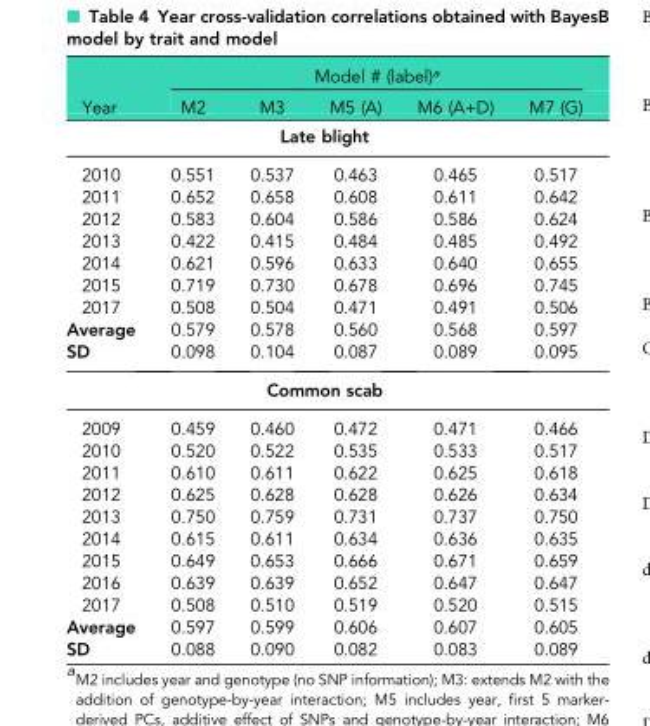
<table><thead><tr><td rowspan="2">Year</td><td colspan="5">Model # (label)<sup>a</sup></td></tr><tr><td>M2</td><td>M3</td><td>M5 (A)</td><td>M6 (A+D)</td><td>M7 (G)</td></tr></thead><tbody><tr><td colspan="6">Late blight</td></tr><tr><td>2010</td><td>0.551</td><td>0.537</td><td>0.463</td><td>0.465</td><td>0.517</td></tr><tr><td>2011</td><td>0.652</td><td>0.658</td><td>0.608</td><td>0.611</td><td>0.642</td></tr><tr><td>2012</td><td>0.583</td><td>0.604</td><td>0.586</td><td>0.586</td><td>0.624</td></tr><tr><td>2013</td><td>0.422</td><td>0.415</td><td>0.484</td><td>0.485</td><td>0.492</td></tr><tr><td>2014</td><td>0.621</td><td>0.596</td><td>0.633</td><td>0.640</td><td>0.655</td></tr><tr><td>2015</td><td>0.719</td><td>0.730</td><td>0.678</td><td>0.696</td><td>0.745</td></tr><tr><td>2017</td><td>0.508</td><td>0.504</td><td>0.471</td><td>0.491</td><td>0.506</td></tr><tr><td>Average</td><td>0.579</td><td>0.578</td><td>0.560</td><td>0.568</td><td>0.597</td></tr><tr><td>SD</td><td>0.098</td><td>0.104</td><td>0.087</td><td>0.089</td><td>0.095</td></tr><tr><td colspan="6">Common scab</td></tr><tr><td>2009</td><td>0.459</td><td>0.460</td><td>0.472</td><td>0.471</td><td>0.466</td></tr><tr><td>2010</td><td>0.520</td><td>0.522</td><td>0.535</td><td>0.533</td><td>0.517</td></tr><tr><td>2011</td><td>0.610</td><td>0.611</td><td>0.622</td><td>0.625</td><td>0.618</td></tr><tr><td>2012</td><td>0.625</td><td>0.628</td><td>0.628</td><td>0.626</td><td>0.634</td></tr><tr><td>2013</td><td>0.750</td><td>0.759</td><td>0.731</td><td>0.737</td><td>0.750</td></tr><tr><td>2014</td><td>0.615</td><td>0.611</td><td>0.634</td><td>0.636</td><td>0.635</td></tr><tr><td>2015</td><td>0.649</td><td>0.653</td><td>0.666</td><td>0.671</td><td>0.659</td></tr><tr><td>2016</td><td>0.639</td><td>0.639</td><td>0.652</td><td>0.647</td><td>0.647</td></tr><tr><td>2017</td><td>0.508</td><td>0.510</td><td>0.519</td><td>0.520</td><td>0.515</td></tr><tr><td>Average</td><td>0.597</td><td>0.599</td><td>0.606</td><td>0.607</td><td>0.605</td></tr><tr><td>SD</td><td>0.088</td><td>0.090</td><td>0.082</td><td>0.083</td><td>0.089</td></tr></tbody></table>